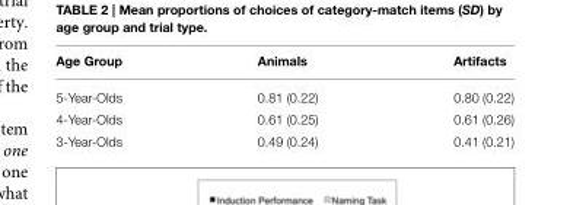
<table><thead><tr><td>Age Group</td><td>Animals</td><td>Artifacts</td></tr></thead><tbody><tr><td>5-Year-Olds</td><td>0.81 (0.22)</td><td>0.80 (0.22)</td></tr><tr><td>4-Year-Olds</td><td>0.61 (0.25)</td><td>0.61 (0.26)</td></tr><tr><td>3-Year-Olds</td><td>0.49 (0.24)</td><td>0.41 (0.21)</td></tr></tbody></table>